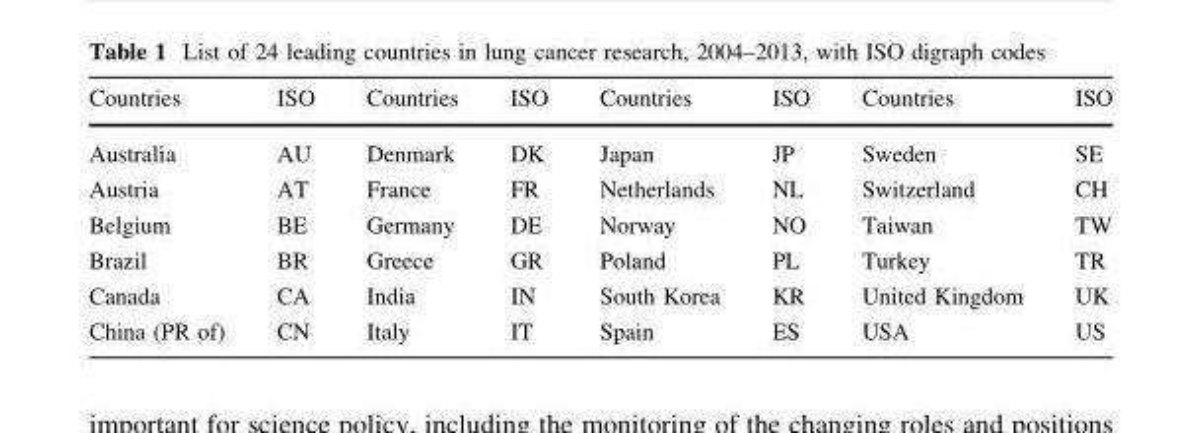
<table><thead><tr><td>Countries</td><td>ISO</td><td>Countries</td><td>ISO</td><td>Countries</td><td>ISO</td><td>Countries</td><td>ISO</td></tr></thead><tbody><tr><td>Australia</td><td>AU</td><td>Denmark</td><td>DK</td><td>Japan</td><td>JP</td><td>Sweden</td><td>SE</td></tr><tr><td>Austria</td><td>AT</td><td>France</td><td>FR</td><td>Netherlands</td><td>NL</td><td>Switzerland</td><td>CH</td></tr><tr><td>Belgium</td><td>BE</td><td>Germany</td><td>DE</td><td>Norway</td><td>NO</td><td>Taiwan</td><td>TW</td></tr><tr><td>Brazil</td><td>BR</td><td>Greece</td><td>GR</td><td>Poland</td><td>PL</td><td>Turkey</td><td>TR</td></tr><tr><td>Canada</td><td>CA</td><td>India</td><td>IN</td><td>South Korea</td><td>KR</td><td>United Kingdom</td><td>UK</td></tr><tr><td>China (PR of)</td><td>CN</td><td>Italy</td><td>IT</td><td>Spain</td><td>ES</td><td>USA</td><td>US</td></tr></tbody></table>